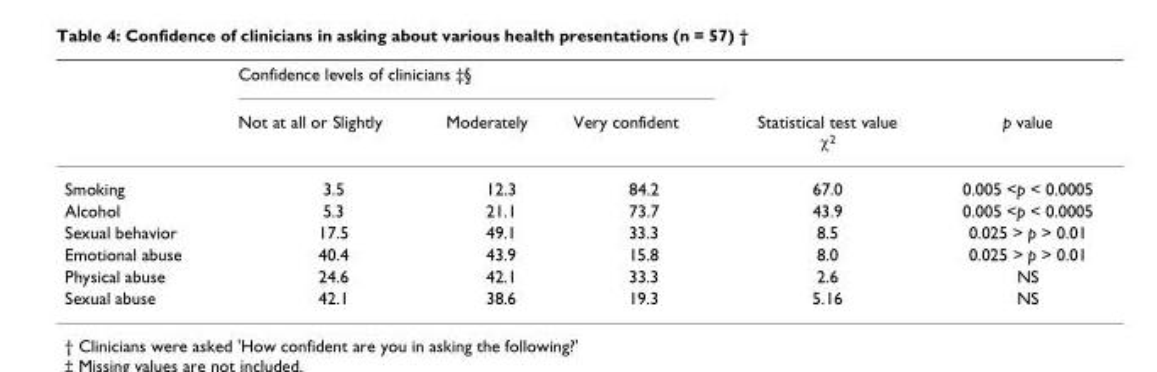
<table><thead><tr><td rowspan="2"></td><td colspan="3">Confidence levels of clinicians ‡§</td><td rowspan="2">Statistical test value χ<sup>2</sup></td><td rowspan="2">p value</td></tr><tr><td>Not at all or Slightly</td><td>Moderately</td><td>Very confident</td></tr></thead><tbody><tr><td>Smoking</td><td>3.5</td><td>12.3</td><td>84.2</td><td>67.0</td><td>0.005 &lt;p &lt; 0.0005</td></tr><tr><td>Alcohol</td><td>5.3</td><td>21.1</td><td>73.7</td><td>43.9</td><td>0.005 &lt;p &lt; 0.0005</td></tr><tr><td>Sexual behavior</td><td>17.5</td><td>49.1</td><td>33.3</td><td>8.5</td><td>0.025 &gt; p &gt; 0.01</td></tr><tr><td>Emotional abuse</td><td>40.4</td><td>43.9</td><td>15.8</td><td>8.0</td><td>0.025 &gt; p &gt; 0.01</td></tr><tr><td>Physical abuse</td><td>24.6</td><td>42.1</td><td>33.3</td><td>2.6</td><td>NS</td></tr><tr><td>Sexual abuse</td><td>42.1</td><td>38.6</td><td>19.3</td><td>5.16</td><td>NS</td></tr></tbody></table>